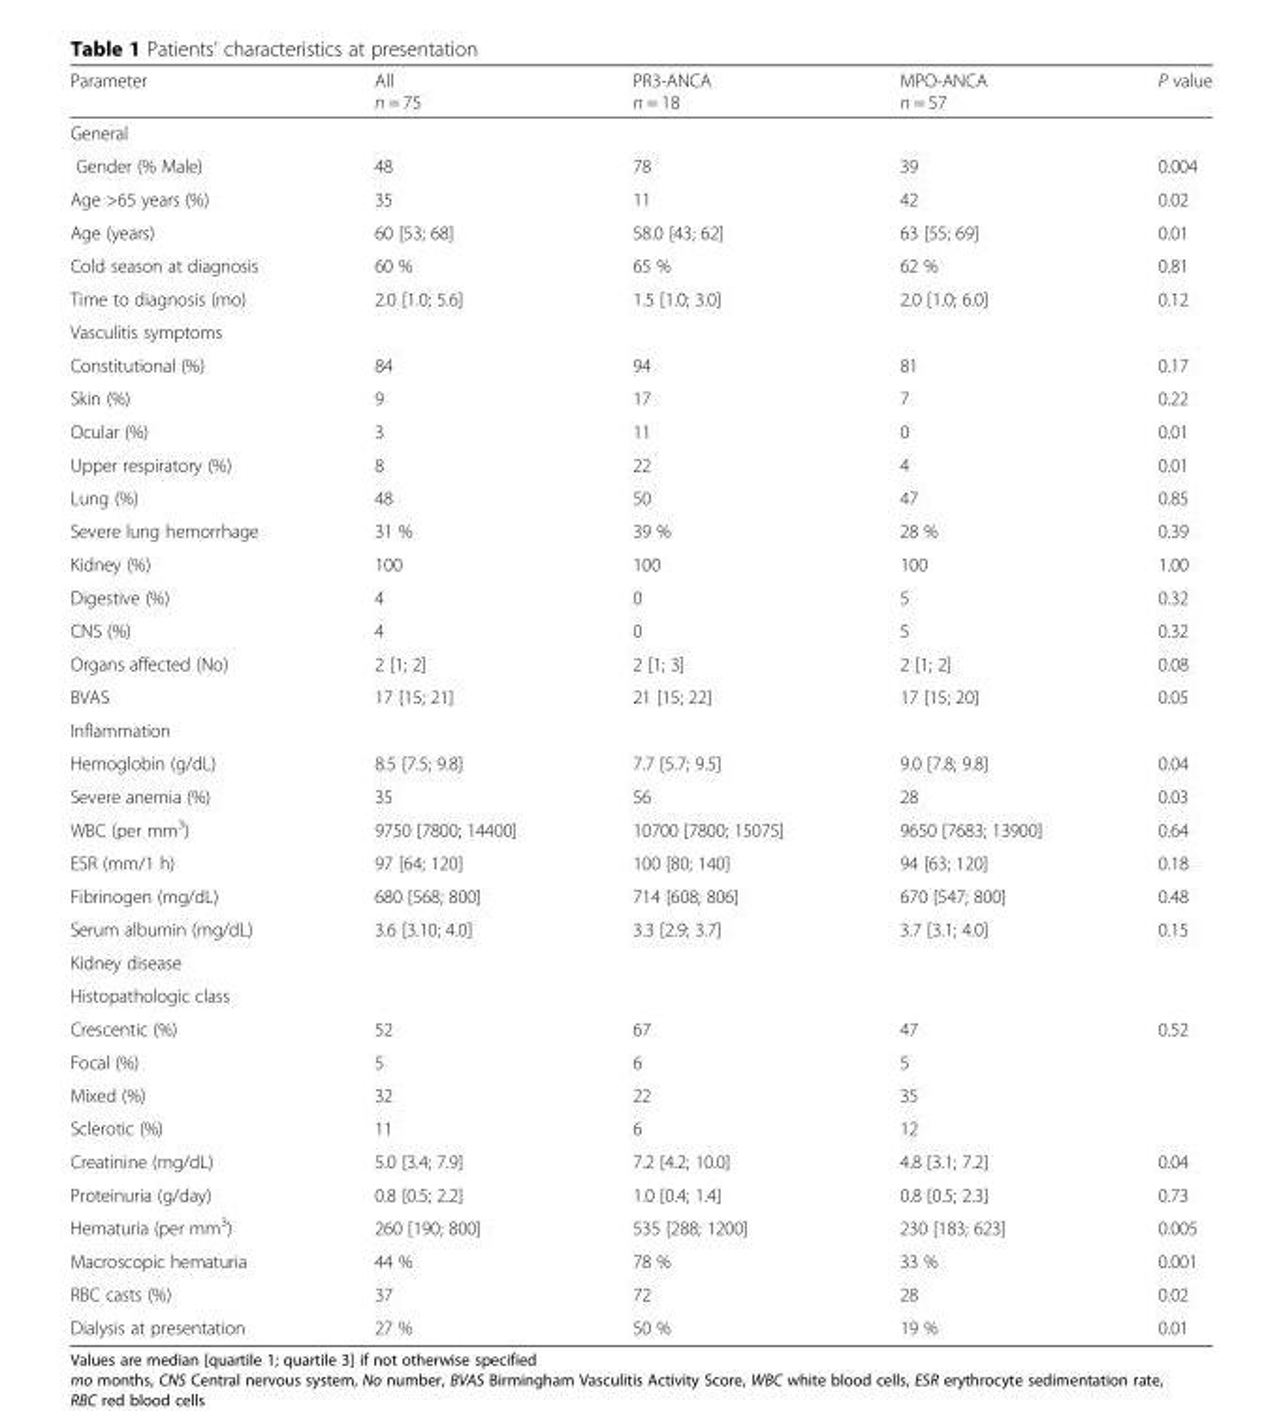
<table><thead><tr><td>Parameter</td><td>All n = 75</td><td>PR3-ANCA n = 18</td><td>MPO-ANCA n = 57</td><td>P value</td></tr></thead><tbody><tr><td colspan="5">General</td></tr><tr><td>Gender (% Male)</td><td>48</td><td>78</td><td>39</td><td>0.004</td></tr><tr><td>Age &gt;65 years (%)</td><td>35</td><td>11</td><td>42</td><td>0.02</td></tr><tr><td>Age (years)</td><td>60 [53; 68]</td><td>58.0 [43; 62]</td><td>63 [55; 69]</td><td>0.01</td></tr><tr><td>Cold season at diagnosis</td><td>60 %</td><td>65 %</td><td>62 %</td><td>0.81</td></tr><tr><td>Time to diagnosis (mo)</td><td>2.0 [1.0; 5.6]</td><td>1.5 [1.0; 3.0]</td><td>2.0 [1.0; 6.0]</td><td>0.12</td></tr><tr><td colspan="5">Vasculitis symptoms</td></tr><tr><td>Constitutional (%)</td><td>84</td><td>94</td><td>81</td><td>0.17</td></tr><tr><td>Skin (%)</td><td>9</td><td>17</td><td>7</td><td>0.22</td></tr><tr><td>Ocular (%)</td><td>3</td><td>11</td><td>0</td><td>0.01</td></tr><tr><td>Upper respiratory (%)</td><td>8</td><td>22</td><td>4</td><td>0.01</td></tr><tr><td>Lung (%)</td><td>48</td><td>50</td><td>47</td><td>0.85</td></tr><tr><td>Severe lung hemorrhage</td><td>31 %</td><td>39 %</td><td>28 %</td><td>0.39</td></tr><tr><td>Kidney (%)</td><td>100</td><td>100</td><td>100</td><td>1.00</td></tr><tr><td>Digestive (%)</td><td>4</td><td>0</td><td>5</td><td>0.32</td></tr><tr><td>CNS (%)</td><td>4</td><td>0</td><td>5</td><td>0.32</td></tr><tr><td>Organs affected (No)</td><td>2 [1; 2]</td><td>2 [1; 3]</td><td>2 [1; 2]</td><td>0.08</td></tr><tr><td>BVAS</td><td>17 [15; 21]</td><td>21 [15; 22]</td><td>17 [15; 20]</td><td>0.05</td></tr><tr><td colspan="5">Inflammation</td></tr><tr><td>Hemoglobin (g/dL)</td><td>8.5 [7.5; 9.8]</td><td>7.7 [5.7; 9.5]</td><td>9.0 [7.8; 9.8]</td><td>0.04</td></tr><tr><td>Severe anemia (%)</td><td>35</td><td>56</td><td>28</td><td>0.03</td></tr><tr><td>WBC (per mm<sup>3</sup>)</td><td>9750 [7800; 14400]</td><td>10700 [7800; 15075]</td><td>9650 [7683; 13900]</td><td>0.64</td></tr><tr><td>ESR (mm/1 h)</td><td>97 [64; 120]</td><td>100 [80; 140]</td><td>94 [63; 120]</td><td>0.18</td></tr><tr><td>Fibrinogen (mg/dL)</td><td>680 [568; 800]</td><td>714 [608; 806]</td><td>670 [547; 800]</td><td>0.48</td></tr><tr><td>Serum albumin (mg/dL)</td><td>3.6 [3.10; 4.0]</td><td>3.3 [2.9; 3.7]</td><td>3.7 [3.1; 4.0]</td><td>0.15</td></tr><tr><td colspan="5">Kidney disease</td></tr><tr><td colspan="5">Histopathologic class</td></tr><tr><td>Crescentic (%)</td><td>52</td><td>67</td><td>47</td><td rowspan="4">0.52</td></tr><tr><td>Focal (%)</td><td>5</td><td>6</td><td>5</td></tr><tr><td>Mixed (%)</td><td>32</td><td>22</td><td>35</td></tr><tr><td>Sclerotic (%)</td><td>11</td><td>6</td><td>12</td></tr><tr><td>Creatinine (mg/dL)</td><td>5.0 [3.4; 7.9]</td><td>7.2 [4.2; 10.0]</td><td>4.8 [3.1; 7.2]</td><td>0.04</td></tr><tr><td>Proteinuria (g/day)</td><td>0.8 [0.5; 2.2]</td><td>1.0 [0.4; 1.4]</td><td>0.8 [0.5; 2.3]</td><td>0.73</td></tr><tr><td>Hematuria (per mm<sup>3</sup>)</td><td>260 [190; 800]</td><td>535 [288; 1200]</td><td>230 [183; 623]</td><td>0.005</td></tr><tr><td>Macroscopic hematuria</td><td>44 %</td><td>78 %</td><td>33 %</td><td>0.001</td></tr><tr><td>RBC casts (%)</td><td>37</td><td>72</td><td>28</td><td>0.02</td></tr><tr><td>Dialysis at presentation</td><td>27 %</td><td>50 %</td><td>19 %</td><td>0.01</td></tr></tbody></table>